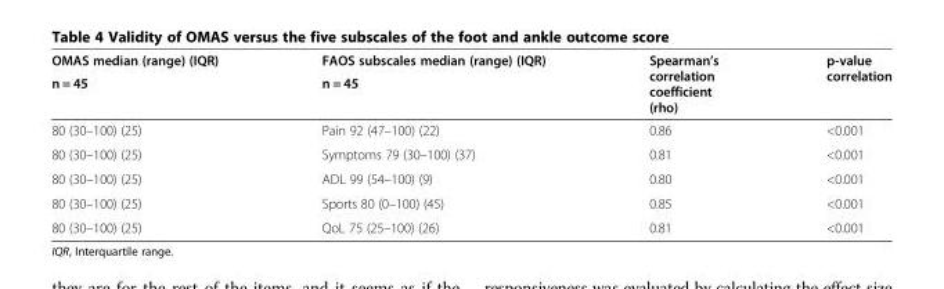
<table><thead><tr><td rowspan="2">OMAS median (range) (IQR) n = 45</td><td rowspan="2">FAOS subscales median (range) (IQR) n = 45</td><td rowspan="2">Spearman’s correlation coefficient (rho)</td><td rowspan="2">p-value correlation</td></tr><tr></tr></thead><tbody><tr><td>80 (30–100) (25)</td><td>Pain 92 (47–100) (22)</td><td>0.86</td><td>&lt;0.001</td></tr><tr><td>80 (30–100) (25)</td><td>Symptoms 79 (30–100) (37)</td><td>0.81</td><td>&lt;0.001</td></tr><tr><td>80 (30–100) (25)</td><td>ADL 99 (54–100) (9)</td><td>0.80</td><td>&lt;0.001</td></tr><tr><td>80 (30–100) (25)</td><td>Sports 80 (0–100) (45)</td><td>0.85</td><td>&lt;0.001</td></tr><tr><td>80 (30–100) (25)</td><td>QoL 75 (25–100) (26)</td><td>0.81</td><td>&lt;0.001</td></tr></tbody></table>